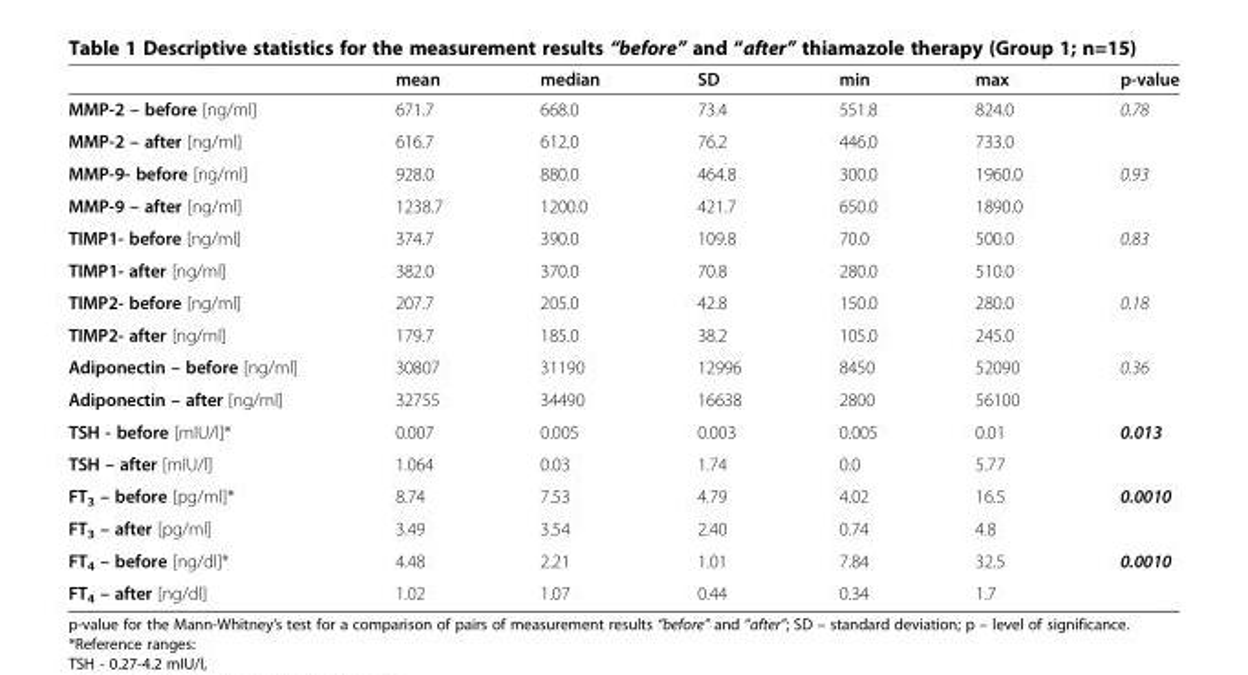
<table><thead><tr><td></td><td>mean</td><td>median</td><td>SD</td><td>min</td><td>max</td><td>p-value</td></tr></thead><tbody><tr><td>MMP-2 – before [ng/ml]</td><td>671.7</td><td>668.0</td><td>73.4</td><td>551.8</td><td>824.0</td><td rowspan="2">0.78</td></tr><tr><td>MMP-2 – after [ng/ml]</td><td>616.7</td><td>612.0</td><td>76.2</td><td>446.0</td><td>733.0</td></tr><tr><td>MMP-9- before [ng/ml]</td><td>928.0</td><td>880.0</td><td>464.8</td><td>300.0</td><td>1960.0</td><td rowspan="2">0.93</td></tr><tr><td>MMP-9 – after [ng/ml]</td><td>1238.7</td><td>1200.0</td><td>421.7</td><td>650.0</td><td>1890.0</td></tr><tr><td>TIMP1- before [ng/ml]</td><td>374.7</td><td>390.0</td><td>109.8</td><td>70.0</td><td>500.0</td><td rowspan="2">0.83</td></tr><tr><td>TIMP1- after [ng/ml]</td><td>382.0</td><td>370.0</td><td>70.8</td><td>280.0</td><td>510.0</td></tr><tr><td>TIMP2- before [ng/ml]</td><td>207.7</td><td>205.0</td><td>42.8</td><td>150.0</td><td>280.0</td><td rowspan="2">0.18</td></tr><tr><td>TIMP2- after [ng/ml]</td><td>179.7</td><td>185.0</td><td>38.2</td><td>105.0</td><td>245.0</td></tr><tr><td>Adiponectin – before [ng/ml]</td><td>30807</td><td>31190</td><td>12996</td><td>8450</td><td>52090</td><td rowspan="2">0.36</td></tr><tr><td>Adiponectin – after [ng/ml]</td><td>32755</td><td>34490</td><td>16638</td><td>2800</td><td>56100</td></tr><tr><td>TSH - before [mIU/l]*</td><td>0.007</td><td>0.005</td><td>0.003</td><td>0.005</td><td>0.01</td><td rowspan="2">0.013</td></tr><tr><td>TSH – after [mIU/l]</td><td>1.064</td><td>0.03</td><td>1.74</td><td>0.0</td><td>5.77</td></tr><tr><td>FT<sub>3</sub> – before [pg/ml]*</td><td>8.74</td><td>7.53</td><td>4.79</td><td>4.02</td><td>16.5</td><td rowspan="2">0.0010</td></tr><tr><td>FT<sub>3</sub> – after [pg/ml]</td><td>3.49</td><td>3.54</td><td>2.40</td><td>0.74</td><td>4.8</td></tr><tr><td>FT<sub>4</sub> – before [ng/dl]*</td><td>4.48</td><td>2.21</td><td>1.01</td><td>7.84</td><td>32.5</td><td>0.0010</td></tr><tr><td>FT<sub>4</sub> – after [ng/dl]</td><td>1.02</td><td>1.07</td><td>0.44</td><td>0.34</td><td>1.7</td><td></td></tr></tbody></table>